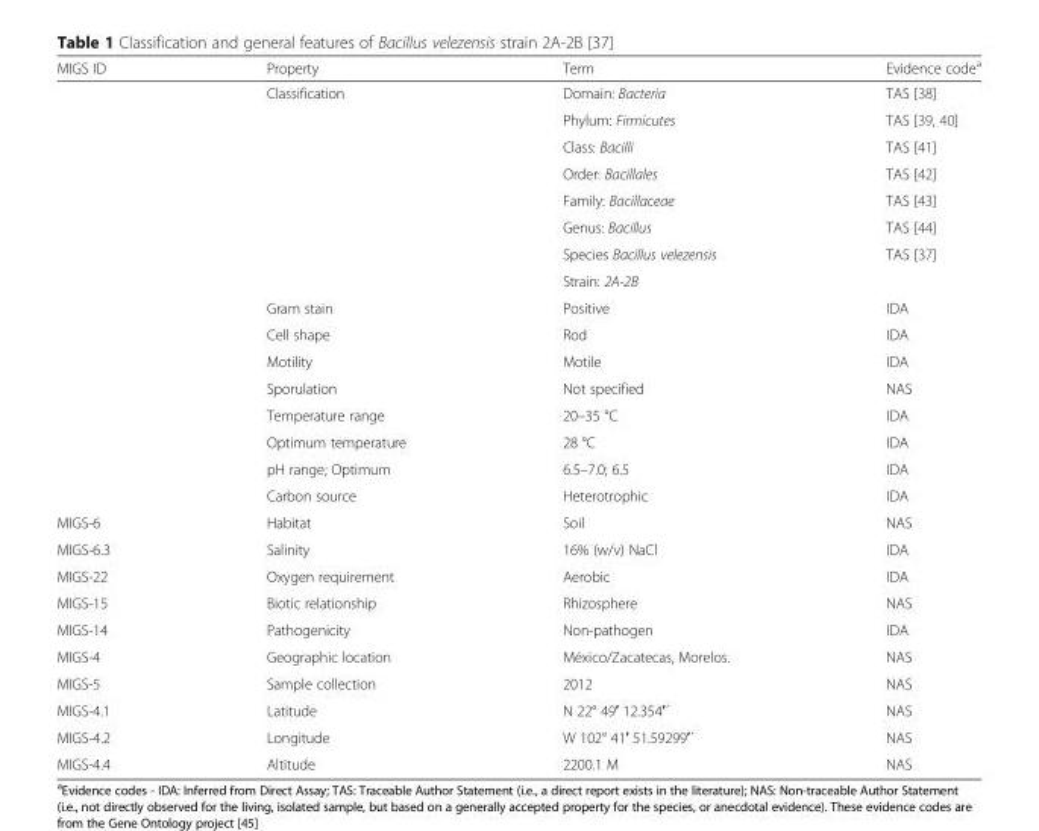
<table><thead><tr><td>MIGS ID</td><td>Property</td><td>Term</td><td>Evidence code<sup>a</sup></td></tr></thead><tbody><tr><td></td><td>Classification</td><td>Domain: Bacteria</td><td>TAS [38]</td></tr><tr><td></td><td></td><td>Phylum: Firmicutes</td><td>TAS [39, 40]</td></tr><tr><td></td><td></td><td>Class: Bacilli</td><td>TAS [41]</td></tr><tr><td></td><td></td><td>Order: Bacillales</td><td>TAS [42]</td></tr><tr><td></td><td></td><td>Family: Bacillaceae</td><td>TAS [43]</td></tr><tr><td></td><td></td><td>Genus: Bacillus</td><td>TAS [44]</td></tr><tr><td></td><td></td><td>Species Bacillus velezensis</td><td>TAS [37]</td></tr><tr><td></td><td></td><td>Strain: 2A-2B</td><td></td></tr><tr><td></td><td>Gram stain</td><td>Positive</td><td>IDA</td></tr><tr><td></td><td>Cell shape</td><td>Rod</td><td>IDA</td></tr><tr><td></td><td>Motility</td><td>Motile</td><td>IDA</td></tr><tr><td></td><td>Sporulation</td><td>Not specified</td><td>NAS</td></tr><tr><td></td><td>Temperature range</td><td>20–35 °C</td><td>IDA</td></tr><tr><td></td><td>Optimum temperature</td><td>28 °C</td><td>IDA</td></tr><tr><td></td><td>pH range; Optimum</td><td>6.5–7.0; 6.5</td><td>IDA</td></tr><tr><td></td><td>Carbon source</td><td>Heterotrophic</td><td>IDA</td></tr><tr><td>MIGS-6</td><td>Habitat</td><td>Soil</td><td>NAS</td></tr><tr><td>MIGS-6.3</td><td>Salinity</td><td>16% (w/v) NaCl</td><td>IDA</td></tr><tr><td>MIGS-22</td><td>Oxygen requirement</td><td>Aerobic</td><td>IDA</td></tr><tr><td>MIGS-15</td><td>Biotic relationship</td><td>Rhizosphere</td><td>NAS</td></tr><tr><td>MIGS-14</td><td>Pathogenicity</td><td>Non-pathogen</td><td>IDA</td></tr><tr><td>MIGS-4</td><td>Geographic location</td><td>México/Zacatecas, Morelos.</td><td>NAS</td></tr><tr><td>MIGS-5</td><td>Sample collection</td><td>2012</td><td>NAS</td></tr><tr><td>MIGS-4.1</td><td>Latitude</td><td>N 22° 49′ 12.354′´</td><td>NAS</td></tr><tr><td>MIGS-4.2</td><td>Longitude</td><td>W 102° 41′ 51.59299′´</td><td>NAS</td></tr><tr><td>MIGS-4.4</td><td>Altitude</td><td>2200.1 M</td><td>NAS</td></tr></tbody></table>